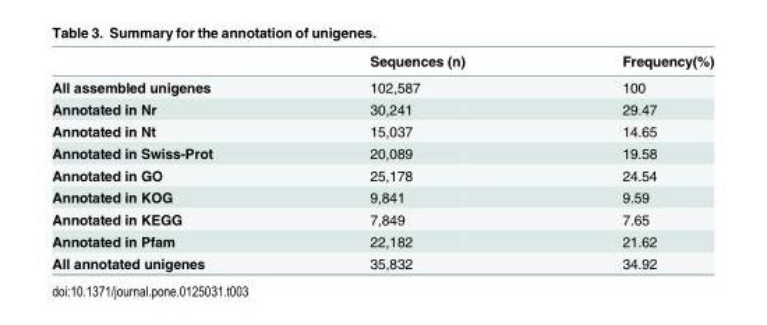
<table><thead><tr><td></td><td>Sequences (n)</td><td>Frequency(%)</td></tr></thead><tbody><tr><td>All assembled unigenes</td><td>102,587</td><td>100</td></tr><tr><td>Annotated in Nr</td><td>30,241</td><td>29.47</td></tr><tr><td>Annotated in Nt</td><td>15,037</td><td>14.65</td></tr><tr><td>Annotated in Swiss-Prot</td><td>20,089</td><td>19.58</td></tr><tr><td>Annotated in GO</td><td>25,178</td><td>24.54</td></tr><tr><td>Annotated in KOG</td><td>9,841</td><td>9.59</td></tr><tr><td>Annotated in KEGG</td><td>7,849</td><td>7.65</td></tr><tr><td>Annotated in Pfam</td><td>22,182</td><td>21.62</td></tr><tr><td>All annotated unigenes</td><td>35,832</td><td>34.92</td></tr></tbody></table>